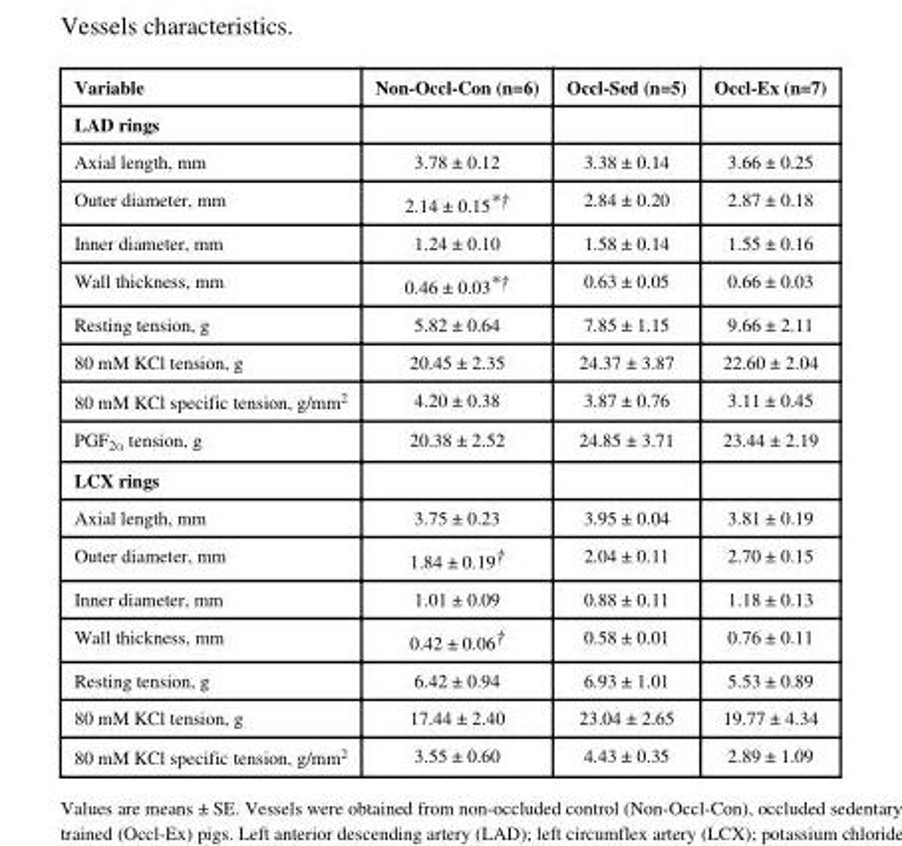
<table><thead><tr><td>Variable</td><td>Non-Occl-Con (n=6)</td><td>Occl-Sed (n=5)</td><td>Occl-Ex (n=7)</td></tr></thead><tbody><tr><td colspan="4">LAD rings</td></tr><tr><td>Axial length, mm</td><td>3.78 ± 0.12</td><td>3.38 ± 0.14</td><td>3.66 ± 0.25</td></tr><tr><td>Outer diameter, mm</td><td>2.14 ± 0.15*†</td><td>2.84 ± 0.20</td><td>2.87 ± 0.18</td></tr><tr><td>Inner diameter, mm</td><td>1.24 ± 0.10</td><td>1.58 ± 0.14</td><td>1.55 ± 0.16</td></tr><tr><td>Wall thickness, mm</td><td>0.46 ± 0.03*†</td><td>0.63 ± 0.05</td><td>0.66 ± 0.03</td></tr><tr><td>Resting tension, g</td><td>5.82 ± 0.64</td><td>7.85 ± 1.15</td><td>9.66 ± 2.11</td></tr><tr><td>80 mM KCl tension, g</td><td>20.45 ± 2.35</td><td>24.37 ± 3.87</td><td>22.60 ± 2.04</td></tr><tr><td>80 mM KCl specific tension, g/mm<sup>2</sup></td><td>4.20 ± 0.38</td><td>3.87 ± 0.76</td><td>3.11 ± 0.45</td></tr><tr><td>PGF<sub>2α</sub> tension, g</td><td>20.38 ± 2.52</td><td>24.85 ± 3.71</td><td>23.44 ± 2.19</td></tr><tr><td colspan="4">LCX rings</td></tr><tr><td>Axial length, mm</td><td>3.75 ± 0.23</td><td>3.95 ± 0.04</td><td>3.81 ± 0.19</td></tr><tr><td>Outer diameter, mm</td><td>1.84 ± 0.19†</td><td>2.04 ± 0.11</td><td>2.70 ± 0.15</td></tr><tr><td>Inner diameter, mm</td><td>1.01 ± 0.09</td><td>0.88 ± 0.11</td><td>1.18 ± 0.13</td></tr><tr><td>Wall thickness, mm</td><td>0.42 ± 0.06†</td><td>0.58 ± 0.01</td><td>0.76 ± 0.11</td></tr><tr><td>Resting tension, g</td><td>6.42 ± 0.94</td><td>6.93 ± 1.01</td><td>5.53 ± 0.89</td></tr><tr><td>80 mM KCl tension, g</td><td>17.44 ± 2.40</td><td>23.04 ± 2.65</td><td>19.77 ± 4.34</td></tr><tr><td>80 mM KCl specific tension, g/mm<sup>2</sup></td><td>3.55 ± 0.60</td><td>4.43 ± 0.35</td><td>2.89 ± 1.09</td></tr></tbody></table>